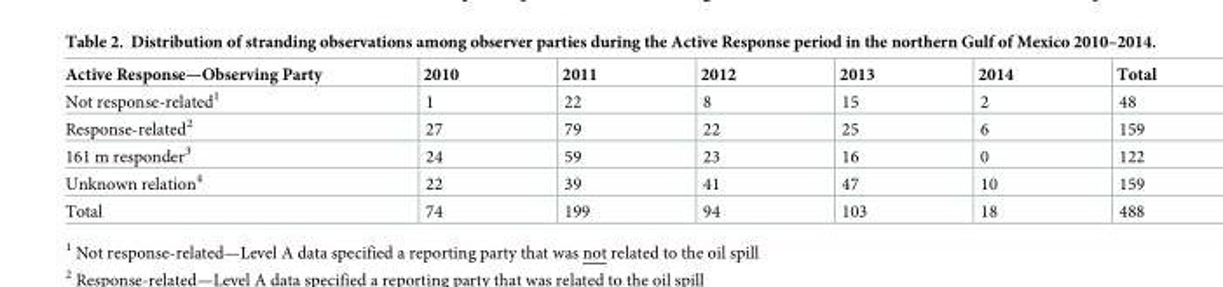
<table><thead><tr><td>Active Response—Observing Party</td><td>2010</td><td>2011</td><td>2012</td><td>2013</td><td>2014</td><td>Total</td></tr></thead><tbody><tr><td>Not response-related<sup>1</sup></td><td>1</td><td>22</td><td>8</td><td>15</td><td>2</td><td>48</td></tr><tr><td>Response-related<sup>2</sup></td><td>27</td><td>79</td><td>22</td><td>25</td><td>6</td><td>159</td></tr><tr><td>161 m responder<sup>3</sup></td><td>24</td><td>59</td><td>23</td><td>16</td><td>0</td><td>122</td></tr><tr><td>Unknown relation<sup>4</sup></td><td>22</td><td>39</td><td>41</td><td>47</td><td>10</td><td>159</td></tr><tr><td>Total</td><td>74</td><td>199</td><td>94</td><td>103</td><td>18</td><td>488</td></tr></tbody></table>